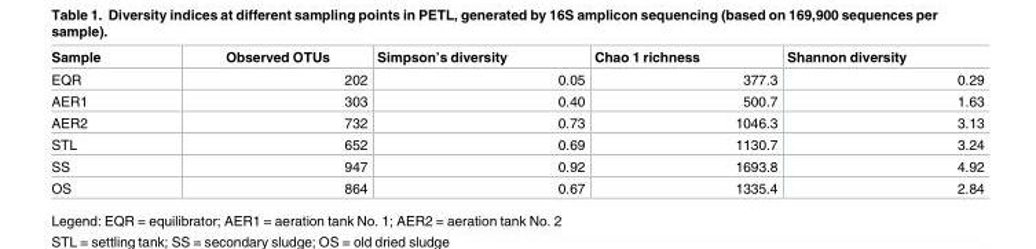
<table><thead><tr><td>Sample</td><td>Observed OTUs</td><td>Simpson’s diversity</td><td>Chao 1 richness</td><td>Shannon diversity</td></tr></thead><tbody><tr><td>EQR</td><td>202</td><td>0.05</td><td>377.3</td><td>0.29</td></tr><tr><td>AER1</td><td>303</td><td>0.40</td><td>500.7</td><td>1.63</td></tr><tr><td>AER2</td><td>732</td><td>0.73</td><td>1046.3</td><td>3.13</td></tr><tr><td>STL</td><td>652</td><td>0.69</td><td>1130.7</td><td>3.24</td></tr><tr><td>SS</td><td>947</td><td>0.92</td><td>1693.8</td><td>4.92</td></tr><tr><td>OS</td><td>864</td><td>0.67</td><td>1335.4</td><td>2.84</td></tr></tbody></table>